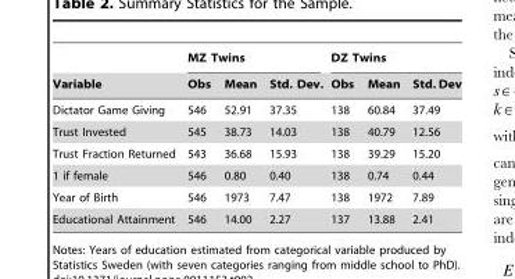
<table><thead><tr><td rowspan="2">Variable</td><td colspan="3">MZ Twins</td><td colspan="3">DZ Twins</td></tr><tr><td>Obs</td><td>Mean</td><td>Std. Dev.</td><td>Obs</td><td>Mean</td><td>Std. Dev</td></tr></thead><tbody><tr><td>Dictator Game Giving</td><td>546</td><td>52.91</td><td>37.35</td><td>138</td><td>60.84</td><td>37.49</td></tr><tr><td>Trust Invested</td><td>545</td><td>38.73</td><td>14.03</td><td>138</td><td>40.79</td><td>12.56</td></tr><tr><td>Trust Fraction Returned</td><td>543</td><td>36.68</td><td>15.93</td><td>138</td><td>39.29</td><td>15.20</td></tr><tr><td>1 if female</td><td>546</td><td>0.80</td><td>0.40</td><td>138</td><td>0.74</td><td>0.44</td></tr><tr><td>Year of Birth</td><td>546</td><td>1973</td><td>7.47</td><td>138</td><td>1972</td><td>7.89</td></tr><tr><td>Educational Attainment</td><td>546</td><td>14.00</td><td>2.27</td><td>137</td><td>13.88</td><td>2.41</td></tr></tbody></table>